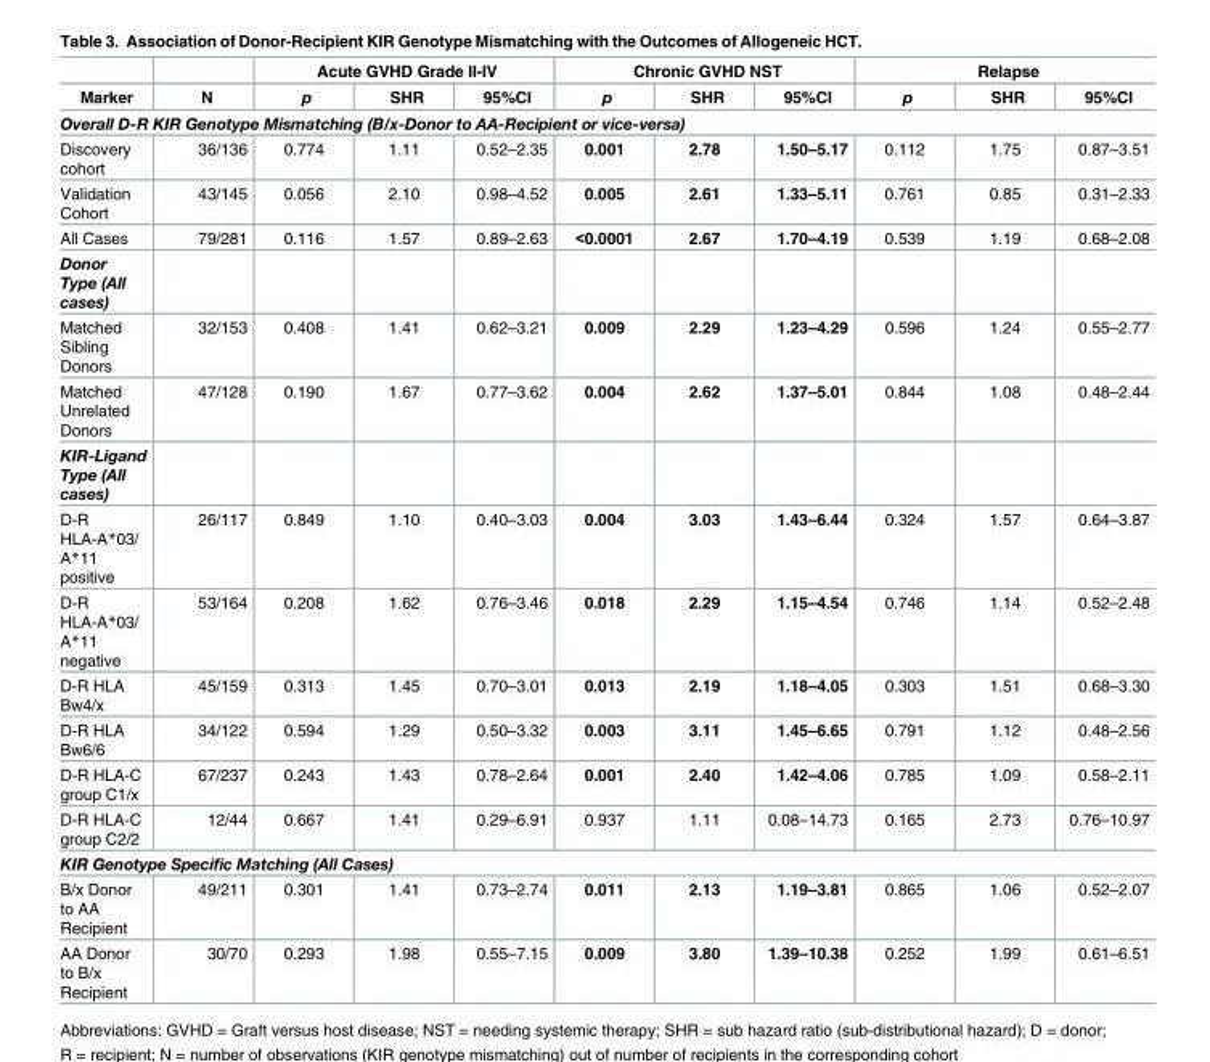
<table><thead><tr><td rowspan="2">Marker</td><td rowspan="2">N</td><td colspan="3">Acute GVHD Grade II-IV</td><td colspan="3">Chronic GVHD NST</td><td colspan="3">Relapse</td></tr><tr><td>p</td><td>SHR</td><td>95%CI</td><td>p</td><td>SHR</td><td>95%CI</td><td>p</td><td>SHR</td><td>95%CI</td></tr></thead><tbody><tr><td colspan="11">Overall D-R KIR Genotype Mismatching (B/x-Donor to AA-Recipient or vice-versa)</td></tr><tr><td>Discovery cohort</td><td>36/136</td><td>0.774</td><td>1.11</td><td>0.52–2.35</td><td>0.001</td><td>2.78</td><td>1.50–5.17</td><td>0.112</td><td>1.75</td><td>0.87–3.51</td></tr><tr><td>Validation Cohort</td><td>43/145</td><td>0.056</td><td>2.10</td><td>0.98–4.52</td><td>0.005</td><td>2.61</td><td>1.33–5.11</td><td>0.761</td><td>0.85</td><td>0.31–2.33</td></tr><tr><td>All Cases</td><td>79/281</td><td>0.116</td><td>1.57</td><td>0.89–2.63</td><td>&lt;0.0001</td><td>2.67</td><td>1.70–4.19</td><td>0.539</td><td>1.19</td><td>0.68–2.08</td></tr><tr><td colspan="11">Donor Type (All cases)</td></tr><tr><td>Matched Sibling Donors</td><td>32/153</td><td>0.408</td><td>1.41</td><td>0.62–3.21</td><td>0.009</td><td>2.29</td><td>1.23–4.29</td><td>0.596</td><td>1.24</td><td>0.55–2.77</td></tr><tr><td>Matched Unrelated Donors</td><td>47/128</td><td>0.190</td><td>1.67</td><td>0.77–3.62</td><td>0.004</td><td>2.62</td><td>1.37–5.01</td><td>0.844</td><td>1.08</td><td>0.48–2.44</td></tr><tr><td colspan="11">KIR-Ligand Type (All cases)</td></tr><tr><td>D-R HLA-A*03/ A*11 positive</td><td>26/117</td><td>0.849</td><td>1.10</td><td>0.40–3.03</td><td>0.004</td><td>3.03</td><td>1.43–6.44</td><td>0.324</td><td>1.57</td><td>0.64–3.87</td></tr><tr><td>D-R HLA-A*03/ A*11 negative</td><td>53/164</td><td>0.208</td><td>1.62</td><td>0.76–3.46</td><td>0.018</td><td>2.29</td><td>1.15–4.54</td><td>0.746</td><td>1.14</td><td>0.52–2.48</td></tr><tr><td>D-R HLA Bw4/x</td><td>45/159</td><td>0.313</td><td>1.45</td><td>0.70–3.01</td><td>0.013</td><td>2.19</td><td>1.18–4.05</td><td>0.303</td><td>1.51</td><td>0.68–3.30</td></tr><tr><td>D-R HLA Bw6/6</td><td>34/122</td><td>0.594</td><td>1.29</td><td>0.50–3.32</td><td>0.003</td><td>3.11</td><td>1.45–6.65</td><td>0.791</td><td>1.12</td><td>0.48–2.56</td></tr><tr><td>D-R HLA-C group C1/x</td><td>67/237</td><td>0.243</td><td>1.43</td><td>0.78–2.64</td><td>0.001</td><td>2.40</td><td>1.42–4.06</td><td>0.785</td><td>1.09</td><td>0.58–2.11</td></tr><tr><td>D-R HLA-C group C2/2</td><td>12/44</td><td>0.667</td><td>1.41</td><td>0.29–6.91</td><td>0.937</td><td>1.11</td><td>0.08–14.73</td><td>0.165</td><td>2.73</td><td>0.76–10.97</td></tr><tr><td colspan="11">KIR Genotype Specific Matching (All Cases)</td></tr><tr><td>B/x Donor to AA Recipient</td><td>49/211</td><td>0.301</td><td>1.41</td><td>0.73–2.74</td><td>0.011</td><td>2.13</td><td>1.19–3.81</td><td>0.865</td><td>1.06</td><td>0.52–2.07</td></tr><tr><td>AA Donor to B/x Recipient</td><td>30/70</td><td>0.293</td><td>1.98</td><td>0.55–7.15</td><td>0.009</td><td>3.80</td><td>1.39–10.38</td><td>0.252</td><td>1.99</td><td>0.61–6.51</td></tr></tbody></table>